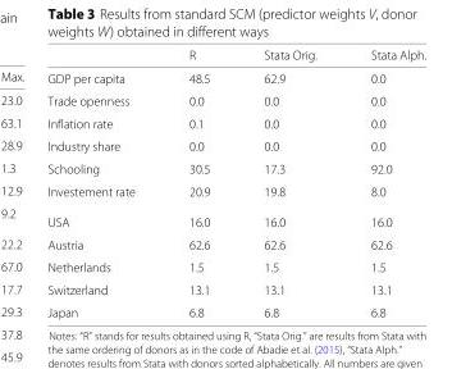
<table><thead><tr><td></td><td>R</td><td>Stata Orig.</td><td>Stata Alph.</td></tr></thead><tbody><tr><td>GDP per capita</td><td>48.5</td><td>62.9</td><td>0.0</td></tr><tr><td>Trade openness</td><td>0.0</td><td>0.0</td><td>0.0</td></tr><tr><td>Inflation rate</td><td>0.1</td><td>0.0</td><td>0.0</td></tr><tr><td>Industry share</td><td>0.0</td><td>0.0</td><td>0.0</td></tr><tr><td>Schooling</td><td>30.5</td><td>17.3</td><td>92.0</td></tr><tr><td>Investement rate</td><td>20.9</td><td>19.8</td><td>8.0</td></tr><tr><td>USA</td><td>16.0</td><td>16.0</td><td>16.0</td></tr><tr><td>Austria</td><td>62.6</td><td>62.6</td><td>62.6</td></tr><tr><td>Netherlands</td><td>1.5</td><td>1.5</td><td>1.5</td></tr><tr><td>Switzerland</td><td>13.1</td><td>13.1</td><td>13.1</td></tr><tr><td>Japan</td><td>6.8</td><td>6.8</td><td>6.8</td></tr></tbody></table>